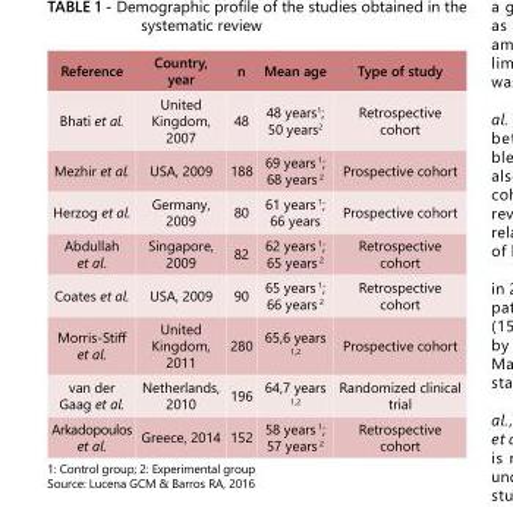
<table><tbody><tr><td>Reference</td><td>Country, year</td><td>n</td><td>Mean age</td><td>Type of study</td></tr><tr><td>Bhati et al.</td><td>United Kingdom, 2007</td><td>48</td><td>48 years<sup>1</sup>; 50 years<sup>2</sup></td><td>Retrospective cohort</td></tr><tr><td>Mezhir et al.</td><td>USA, 2009</td><td>188</td><td>69 years <sup>1</sup>; 68 years <sup>2</sup></td><td>Prospective cohort</td></tr><tr><td>Herzog et al.</td><td>Germany, 2009</td><td>80</td><td>61 years <sup>1</sup>; 66 years</td><td>Prospective cohort</td></tr><tr><td>Abdullah et al.</td><td>Singapore, 2009</td><td>82</td><td>62 years <sup>1</sup>; 65 years <sup>2</sup></td><td>Retrospective cohort</td></tr><tr><td>Coates et al.</td><td>USA, 2009</td><td>90</td><td>65 years <sup>1</sup>; 66 years <sup>2</sup></td><td>Retrospective cohort</td></tr><tr><td>Morris-Stiff et al.</td><td>United Kingdom, 2011</td><td>280</td><td>65,6 years <sup>1,2</sup></td><td>Prospective cohort</td></tr><tr><td>van der Gaag et al.</td><td>Netherlands, 2010</td><td>196</td><td>64,7 years <sup>1,2</sup></td><td>Randomized clinical trial</td></tr><tr><td>Arkadopoulos et al.</td><td>Greece, 2014</td><td>152</td><td>58 years <sup>1</sup>; 57 years <sup>2</sup></td><td>Retrospective cohort</td></tr></tbody></table>